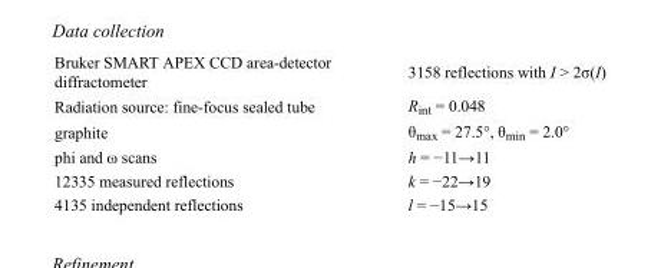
<table><tbody><tr><td>Bruker SMART APEX CCD area-detector diffractometer</td><td>3158 reflections with I &gt; 2σ(I)</td></tr><tr><td>Radiation source: fine-focus sealed tube</td><td>R<sub>int</sub> = 0.048</td></tr><tr><td>graphite</td><td>θ<sub>max</sub> = 27.5°, θ<sub>min</sub> = 2.0°</td></tr><tr><td>phi and ω scans</td><td>h = −11→11</td></tr><tr><td>12335 measured reflections</td><td>k = −22→19</td></tr><tr><td>4135 independent reflections</td><td>l = −15→15</td></tr></tbody></table>